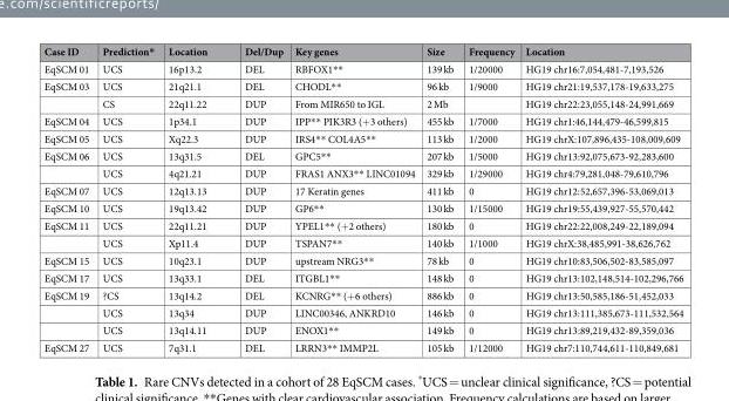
<table><thead><tr><td>Case ID</td><td>Prediction*</td><td>Location</td><td>Del/Dup</td><td>Key genes</td><td>Size</td><td>Frequency</td><td>Location</td></tr></thead><tbody><tr><td>EqSCM 01</td><td>UCS</td><td>16p13.2</td><td>DEL</td><td>RBFOX1**</td><td>139 kb</td><td>1/20000</td><td>HG19 chr16:7,054,481-7,193,526</td></tr><tr><td rowspan="2">EqSCM 03</td><td>UCS</td><td>21q21.1</td><td>DEL</td><td>CHODL**</td><td>96 kb</td><td>1/9000</td><td>HG19 chr21:19,537,178-19,633,275</td></tr><tr><td>CS</td><td>22q11.22</td><td>DUP</td><td>From MIR650 to IGL</td><td>2 Mb</td><td></td><td>HG19 chr22:23,055,148-24,991,669</td></tr><tr><td>EqSCM 04</td><td>UCS</td><td>1p34.1</td><td>DUP</td><td>IPP** PIK3R3 (+3 others)</td><td>455 kb</td><td>1/7000</td><td>HG19 chr1:46,144,479-46,599,815</td></tr><tr><td>EqSCM 05</td><td>UCS</td><td>Xq22.3</td><td>DUP</td><td>IRS4** COL4A5**</td><td>113 kb</td><td>1/2000</td><td>HG19 chrX:107,896,435-108,009,609</td></tr><tr><td rowspan="2">EqSCM 06</td><td>UCS</td><td>13q31.5</td><td>DEL</td><td>GPC5**</td><td>207 kb</td><td>1/5000</td><td>HG19 chr13:92,075,673-92,283,600</td></tr><tr><td>UCS</td><td>4q21.21</td><td>DUP</td><td>FRAS1 ANX3** LINC01094</td><td>329 kb</td><td>1/29000</td><td>HG19 chr4:79,281,048-79,610,796</td></tr><tr><td>EqSCM 07</td><td>UCS</td><td>12q13.13</td><td>DUP</td><td>17 Keratin genes</td><td>411 kb</td><td>0</td><td>HG19 chr12:52,657,396-53,069,013</td></tr><tr><td>EqSCM 10</td><td>UCS</td><td>19q13.42</td><td>DUP</td><td>GP6**</td><td>130 kb</td><td>1/15000</td><td>HG19 chr19:55,439,927-55,570,442</td></tr><tr><td rowspan="2">EqSCM 11</td><td>UCS</td><td>22q11.21</td><td>DUP</td><td>YPEL1** (+2 others)</td><td>180 kb</td><td>0</td><td>HG19 chr22:22,008,249-22,189,094</td></tr><tr><td>UCS</td><td>Xp11.4</td><td>DUP</td><td>TSPAN7**</td><td>140 kb</td><td>1/1000</td><td>HG19 chrX:38,485,991-38,626,762</td></tr><tr><td>EqSCM 15</td><td>UCS</td><td>10q23.1</td><td>DUP</td><td>upstream NRG3**</td><td>78 kb</td><td>0</td><td>HG19 chr10:83,506,502-83,585,097</td></tr><tr><td>EqSCM 17</td><td>UCS</td><td>13q33.1</td><td>DEL</td><td>ITGBL1**</td><td>148 kb</td><td>0</td><td>HG19 chr13:102,148,514-102,296,766</td></tr><tr><td rowspan="3">EqSCM 19</td><td>?CS</td><td>13q14.2</td><td>DEL</td><td>KCNRG** (+6 others)</td><td>886 kb</td><td>0</td><td>HG19 chr13:50,585,186-51,452,033</td></tr><tr><td>UCS</td><td>13q34</td><td>DUP</td><td>LINC00346, ANKRD10</td><td>146 kb</td><td>0</td><td>HG19 chr13:111,385,673-111,532,564</td></tr><tr><td>UCS</td><td>13q14.11</td><td>DUP</td><td>ENOX1**</td><td>149 kb</td><td>0</td><td>HG19 chr13:89,219,432-89,359,036</td></tr><tr><td>EqSCM 27</td><td>UCS</td><td>7q31.1</td><td>DEL</td><td>LRRN3** IMMP2L</td><td>105 kb</td><td>1/12000</td><td>HG19 chr7:110,744,611-110,849,681</td></tr></tbody></table>